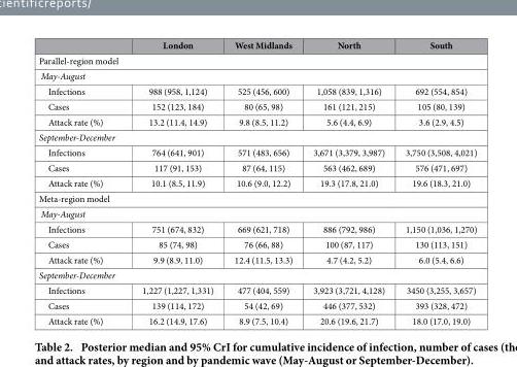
<table><thead><tr><td></td><td>London</td><td>West Midlands</td><td>North</td><td>South</td></tr></thead><tbody><tr><td colspan="5">Parallel-region model</td></tr><tr><td colspan="5">May-August</td></tr><tr><td>Infections</td><td>988 (958, 1,124)</td><td>525 (456, 600)</td><td>1,058 (839, 1,316)</td><td>692 (554, 854)</td></tr><tr><td>Cases</td><td>152 (123, 184)</td><td>80 (65, 98)</td><td>161 (121, 215)</td><td>105 (80, 139)</td></tr><tr><td>Attack rate (%)</td><td>13.2 (11.4, 14.9)</td><td>9.8 (8.5, 11.2)</td><td>5.6 (4.4, 6.9)</td><td>3.6 (2.9, 4.5)</td></tr><tr><td colspan="5">September-December</td></tr><tr><td>Infections</td><td>764 (641, 901)</td><td>571 (483, 656)</td><td>3,671 (3,379, 3,987)</td><td>3,750 (3,508, 4,021)</td></tr><tr><td>Cases</td><td>117 (91, 153)</td><td>87 (64, 115)</td><td>563 (462, 689)</td><td>576 (471, 697)</td></tr><tr><td>Attack rate (%)</td><td>10.1 (8.5, 11.9)</td><td>10.6 (9.0, 12.2)</td><td>19.3 (17.8, 21.0)</td><td>19.6 (18.3, 21.0)</td></tr><tr><td colspan="5">Meta-region model</td></tr><tr><td colspan="5">May-August</td></tr><tr><td>Infections</td><td>751 (674, 832)</td><td>669 (621, 718)</td><td>886 (792, 986)</td><td>1,150 (1,036, 1,270)</td></tr><tr><td>Cases</td><td>85 (74, 98)</td><td>76 (66, 88)</td><td>100 (87, 117)</td><td>130 (113, 151)</td></tr><tr><td>Attack rate (%)</td><td>9.9 (8.9, 11.0)</td><td>12.4 (11.5, 13.3)</td><td>4.7 (4.2, 5.2)</td><td>6.0 (5.4, 6.6)</td></tr><tr><td colspan="5">September-December</td></tr><tr><td>Infections</td><td>1,227 (1,227, 1,331)</td><td>477 (404, 559)</td><td>3,923 (3,721, 4,128)</td><td>3450 (3,255, 3,657)</td></tr><tr><td>Cases</td><td>139 (114, 172)</td><td>54 (42, 69)</td><td>446 (377, 532)</td><td>393 (328, 472)</td></tr><tr><td>Attack rate (%)</td><td>16.2 (14.9, 17.6)</td><td>8.9 (7.5, 10.4)</td><td>20.6 (19.6, 21.7)</td><td>18.0 (17.0, 19.0)</td></tr></tbody></table>